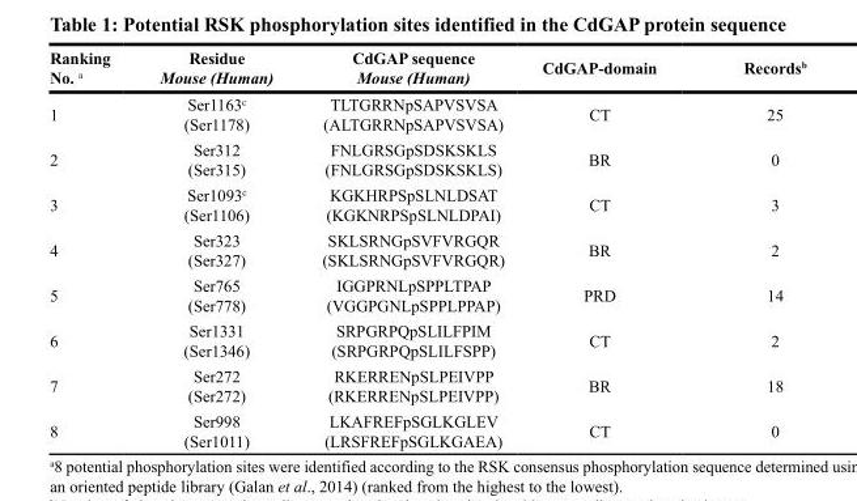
<table><thead><tr><td>Ranking No. <sup>a</sup></td><td>Residue Mouse (Human)</td><td>CdGAP sequence Mouse (Human)</td><td>CdGAP-domain</td><td>Records<sup>b</sup></td></tr></thead><tbody><tr><td>1</td><td>Ser1163<sup>c</sup> (Ser1178)</td><td>TLTGRRNpSAPVSVSA (ALTGRRNpSAPVSVSA)</td><td>CT</td><td>25</td></tr><tr><td>2</td><td>Ser312 (Ser315)</td><td>FNLGRSGpSDSKSKLS (FNLGRSGpSDSKSKLS)</td><td>BR</td><td>0</td></tr><tr><td>3</td><td>Ser1093<sup>c</sup> (Ser1106)</td><td>KGKHRPSpSLNLDSAT (KGKNRPSpSLNLDPAI)</td><td>CT</td><td>3</td></tr><tr><td>4</td><td>Ser323 (Ser327)</td><td>SKLSRNGpSVFVRGQR (SKLSRNGpSVFVRGQR)</td><td>BR</td><td>2</td></tr><tr><td>5</td><td>Ser765 (Ser778)</td><td>IGGPRNLpSPPLTPAP (VGGPGNLpSPPLPPAP)</td><td>PRD</td><td>14</td></tr><tr><td>6</td><td>Ser1331 (Ser1346)</td><td>SRPGRPQpSLILFPIM (SRPGRPQpSLILFSPP)</td><td>CT</td><td>2</td></tr><tr><td>7</td><td>Ser272 (Ser272)</td><td>RKERRENpSLPEIVPP (RKERRENpSLPEIVPP)</td><td>BR</td><td>18</td></tr><tr><td>8</td><td>Ser998 (Ser1011)</td><td>LKAFREFpSGLKGLEV (LRSFREFpSGLKGAEA)</td><td>CT</td><td>0</td></tr></tbody></table>